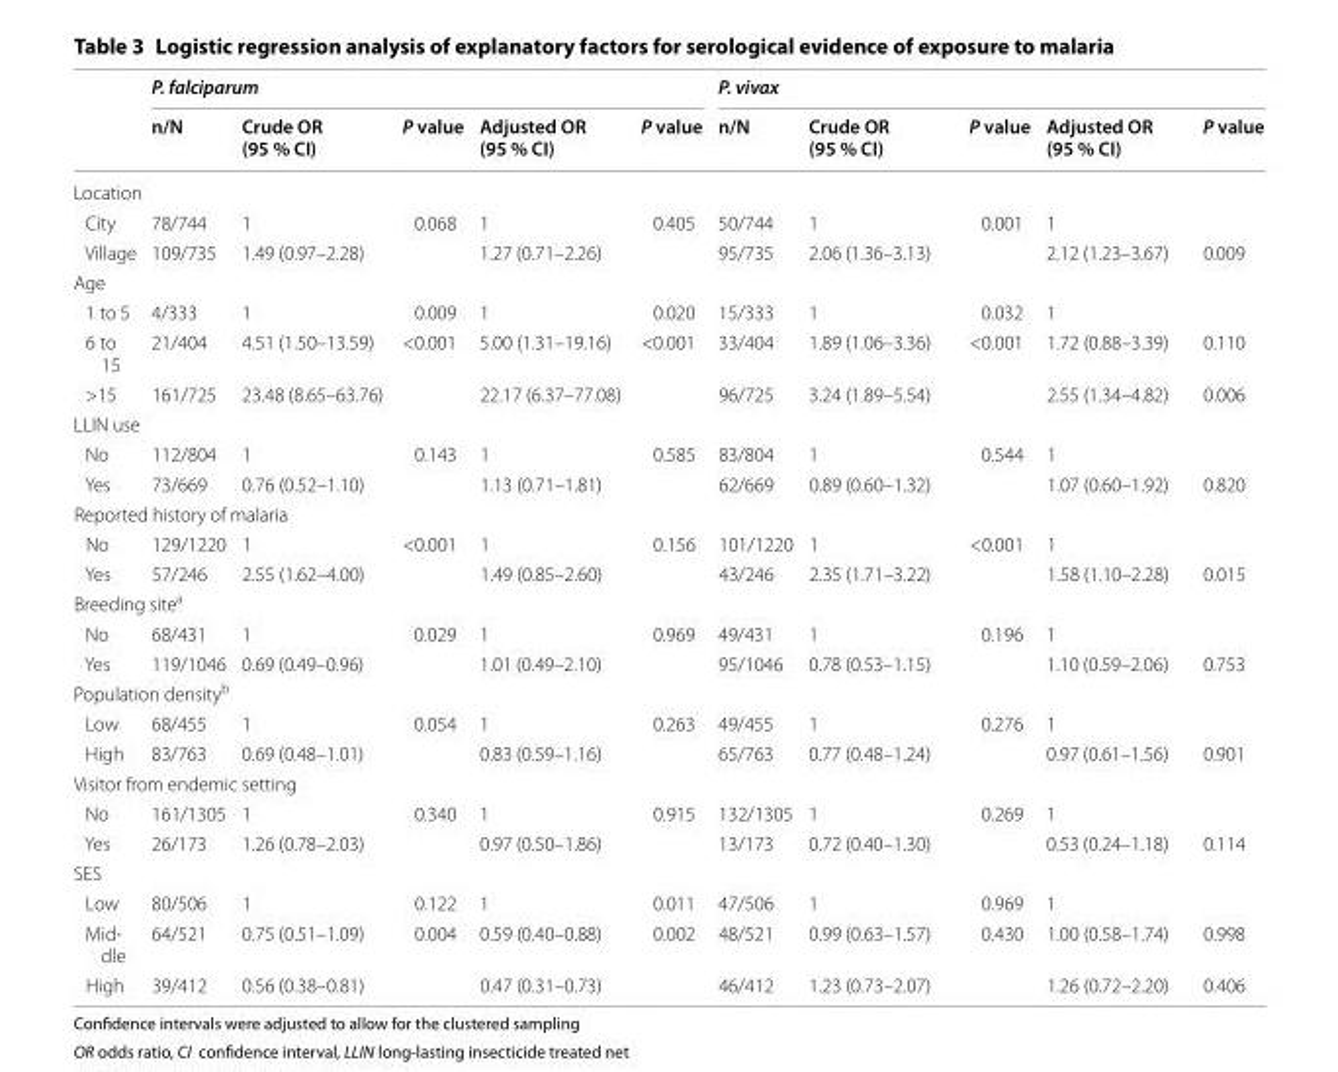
<table><thead><tr><td rowspan="2"></td><td colspan="5">P. falciparum</td><td colspan="5">P. vivax</td></tr><tr><td>n/N</td><td>Crude OR (95 % CI)</td><td>P value</td><td>Adjusted OR (95 % CI)</td><td>P value</td><td>n/N</td><td>Crude OR (95 % CI)</td><td>P value</td><td>Adjusted OR (95 % CI)</td><td>P value</td></tr></thead><tbody><tr><td colspan="11">Location</td></tr><tr><td>City</td><td>78/744</td><td>1</td><td>0.068</td><td>1</td><td>0.405</td><td>50/744</td><td>1</td><td>0.001</td><td>1</td><td></td></tr><tr><td>Village</td><td>109/735</td><td>1.49 (0.97–2.28)</td><td></td><td>1.27 (0.71–2.26)</td><td></td><td>95/735</td><td>2.06 (1.36–3.13)</td><td></td><td>2.12 (1.23–3.67)</td><td>0.009</td></tr><tr><td colspan="11">Age</td></tr><tr><td>1 to 5</td><td>4/333</td><td>1</td><td>0.009</td><td>1</td><td>0.020</td><td>15/333</td><td>1</td><td>0.032</td><td>1</td><td></td></tr><tr><td>6 to 15</td><td>21/404</td><td>4.51 (1.50–13.59)</td><td>&lt;0.001</td><td>5.00 (1.31–19.16)</td><td>&lt;0.001</td><td>33/404</td><td>1.89 (1.06–3.36)</td><td>&lt;0.001</td><td>1.72 (0.88–3.39)</td><td>0.110</td></tr><tr><td>&gt;15</td><td>161/725</td><td>23.48 (8.65–63.76)</td><td></td><td>22.17 (6.37–77.08)</td><td></td><td>96/725</td><td>3.24 (1.89–5.54)</td><td></td><td>2.55 (1.34–4.82)</td><td>0.006</td></tr><tr><td colspan="11">LLIN use</td></tr><tr><td>No</td><td>112/804</td><td>1</td><td>0.143</td><td>1</td><td>0.585</td><td>83/804</td><td>1</td><td>0.544</td><td>1</td><td></td></tr><tr><td>Yes</td><td>73/669</td><td>0.76 (0.52–1.10)</td><td></td><td>1.13 (0.71–1.81)</td><td></td><td>62/669</td><td>0.89 (0.60–1.32)</td><td></td><td>1.07 (0.60–1.92)</td><td>0.820</td></tr><tr><td colspan="11">Reported history of malaria</td></tr><tr><td>No</td><td>129/1220</td><td>1</td><td>&lt;0.001</td><td>1</td><td>0.156</td><td>101/1220</td><td>1</td><td>&lt;0.001</td><td>1</td><td></td></tr><tr><td>Yes</td><td>57/246</td><td>2.55 (1.62–4.00)</td><td></td><td>1.49 (0.85–2.60)</td><td></td><td>43/246</td><td>2.35 (1.71–3.22)</td><td></td><td>1.58 (1.10–2.28)</td><td>0.015</td></tr><tr><td colspan="11">Breeding site<sup>a</sup></td></tr><tr><td>No</td><td>68/431</td><td>1</td><td>0.029</td><td>1</td><td>0.969</td><td>49/431</td><td>1</td><td>0.196</td><td>1</td><td></td></tr><tr><td>Yes</td><td>119/1046</td><td>0.69 (0.49–0.96)</td><td></td><td>1.01 (0.49–2.10)</td><td></td><td>95/1046</td><td>0.78 (0.53–1.15)</td><td></td><td>1.10 (0.59–2.06)</td><td>0.753</td></tr><tr><td colspan="11">Population density<sup>b</sup></td></tr><tr><td>Low</td><td>68/455</td><td>1</td><td>0.054</td><td>1</td><td>0.263</td><td>49/455</td><td>1</td><td>0.276</td><td>1</td><td></td></tr><tr><td>High</td><td>83/763</td><td>0.69 (0.48–1.01)</td><td></td><td>0.83 (0.59–1.16)</td><td></td><td>65/763</td><td>0.77 (0.48–1.24)</td><td></td><td>0.97 (0.61–1.56)</td><td>0.901</td></tr><tr><td colspan="11">Visitor from endemic setting</td></tr><tr><td>No</td><td>161/1305</td><td>1</td><td>0.340</td><td>1</td><td>0.915</td><td>132/1305</td><td>1</td><td>0.269</td><td>1</td><td></td></tr><tr><td>Yes</td><td>26/173</td><td>1.26 (0.78–2.03)</td><td></td><td>0.97 (0.50–1.86)</td><td></td><td>13/173</td><td>0.72 (0.40–1.30)</td><td></td><td>0.53 (0.24–1.18)</td><td>0.114</td></tr><tr><td colspan="11">SES</td></tr><tr><td>Low</td><td>80/506</td><td>1</td><td>0.122</td><td>1</td><td>0.011</td><td>47/506</td><td>1</td><td>0.969</td><td>1</td><td></td></tr><tr><td>Mid- dle</td><td>64/521</td><td>0.75 (0.51–1.09)</td><td>0.004</td><td>0.59 (0.40–0.88)</td><td>0.002</td><td>48/521</td><td>0.99 (0.63–1.57)</td><td>0.430</td><td>1.00 (0.58–1.74)</td><td>0.998</td></tr><tr><td>High</td><td>39/412</td><td>0.56 (0.38–0.81)</td><td></td><td>0.47 (0.31–0.73)</td><td></td><td>46/412</td><td>1.23 (0.73–2.07)</td><td></td><td>1.26 (0.72–2.20)</td><td>0.406</td></tr></tbody></table>